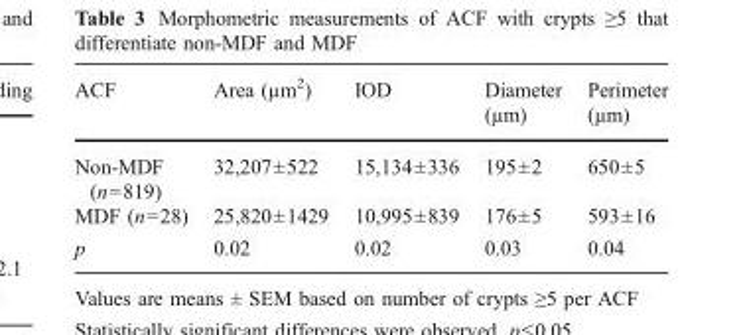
<table><thead><tr><td>ACF</td><td>Area (µm<sup>2</sup>)</td><td>IOD</td><td>Diameter (µm)</td><td>Perimeter (µm)</td></tr></thead><tbody><tr><td>Non-MDF (n=819)</td><td>32,207±522</td><td>15,134±336</td><td>195±2</td><td>650±5</td></tr><tr><td>MDF (n=28)</td><td>25,820±1429</td><td>10,995±839</td><td>176±5</td><td>593±16</td></tr><tr><td>p</td><td>0.02</td><td>0.02</td><td>0.03</td><td>0.04</td></tr></tbody></table>